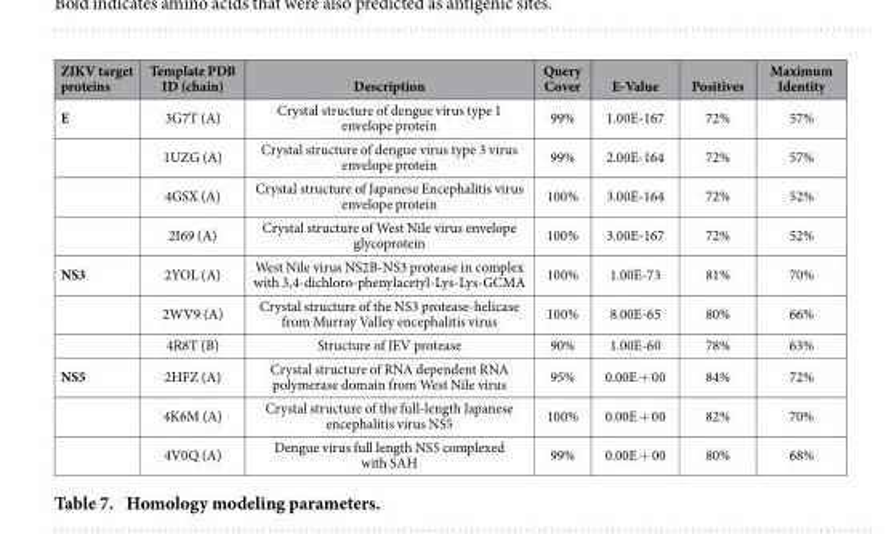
<table><thead><tr><td>ZIKV target proteins</td><td>Template PDB ID (chain)</td><td>Description</td><td>Query Cover</td><td>E-Value</td><td>Positives</td><td>Maximum Identity</td></tr></thead><tbody><tr><td rowspan="4">E</td><td>3G7T (A)</td><td>Crystal structure of dengue virus type 1 envelope protein</td><td>99%</td><td>1.00E-167</td><td>72%</td><td>57%</td></tr><tr><td>1UZG (A)</td><td>Crystal structure of dengue virus type 3 virus envelope protein</td><td>99%</td><td>2.00E-164</td><td>72%</td><td>57%</td></tr><tr><td>4GSX (A)</td><td>Crystal structure of Japanese Encephalitis virus envelope protein</td><td>100%</td><td>3.00E-164</td><td>72%</td><td>52%</td></tr><tr><td>2I69 (A)</td><td>Crystal structure of West Nile virus envelope glycoprotein</td><td>100%</td><td>3.00E-167</td><td>72%</td><td>52%</td></tr><tr><td rowspan="3">NS3</td><td>2YOL (A)</td><td>West Nile virus NS2B-NS3 protease in complex with 3,4-dichloro-phenylacetyl-Lys-Lys-GCMA</td><td>100%</td><td>1.00E-73</td><td>81%</td><td>70%</td></tr><tr><td>2WV9 (A)</td><td>Crystal structure of the NS3 protease-helicase from Murray Valley encephalitis virus</td><td>100%</td><td>8.00E-65</td><td>80%</td><td>66%</td></tr><tr><td>4R8T (B)</td><td>Structure of JEV protease</td><td>90%</td><td>1.00E-60</td><td>78%</td><td>63%</td></tr><tr><td rowspan="3">NS5</td><td>2HFZ (A)</td><td>Crystal structure of RNA dependent RNA polymerase domain from West Nile virus</td><td>95%</td><td>0.00E + 00</td><td>84%</td><td>72%</td></tr><tr><td>4K6M (A)</td><td>Crystal structure of the full-length Japanese encephalitis virus NS5</td><td>100%</td><td>0.00E + 00</td><td>82%</td><td>70%</td></tr><tr><td>4V0Q (A)</td><td>Dengue virus full length NS5 complexed with SAH</td><td>99%</td><td>0.00E + 00</td><td>80%</td><td>68%</td></tr></tbody></table>